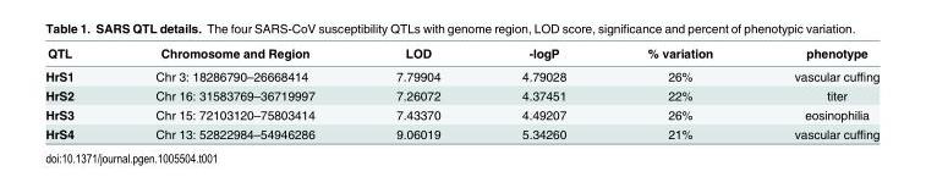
<table><thead><tr><td>QTL</td><td>Chromosome and Region</td><td>LOD</td><td>-logP</td><td>% variation</td><td>phenotype</td></tr></thead><tbody><tr><td>HrS1</td><td>Chr 3: 18286790–26668414</td><td>7.79904</td><td>4.79028</td><td>26%</td><td>vascular cuffing</td></tr><tr><td>HrS2</td><td>Chr 16: 31583769–36719997</td><td>7.26072</td><td>4.37451</td><td>22%</td><td>titer</td></tr><tr><td>HrS3</td><td>Chr 15: 72103120–75803414</td><td>7.43370</td><td>4.49207</td><td>26%</td><td>eosinophilia</td></tr><tr><td>HrS4</td><td>Chr 13: 52822984–54946286</td><td>9.06019</td><td>5.34260</td><td>21%</td><td>vascular cuffing</td></tr></tbody></table>